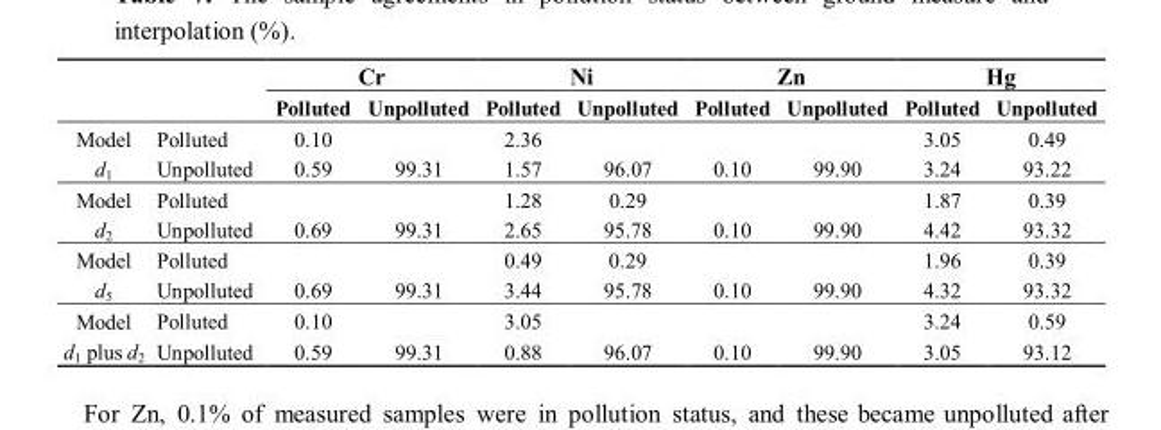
<table><thead><tr><td rowspan="2"></td><td rowspan="2"></td><td colspan="2">Cr</td><td colspan="2">Ni</td><td colspan="2">Zn</td><td colspan="2">Hg</td></tr><tr><td>Polluted</td><td>Unpolluted</td><td>Polluted</td><td>Unpolluted</td><td>Polluted</td><td>Unpolluted</td><td>Polluted</td><td>Unpolluted</td></tr></thead><tbody><tr><td rowspan="2">Model d<sub>1</sub></td><td>Polluted</td><td>0.10</td><td></td><td>2.36</td><td></td><td></td><td></td><td>3.05</td><td>0.49</td></tr><tr><td>Unpolluted</td><td>0.59</td><td>99.31</td><td>1.57</td><td>96.07</td><td>0.10</td><td>99.90</td><td>3.24</td><td>93.22</td></tr><tr><td rowspan="2">Model d<sub>2</sub></td><td>Polluted</td><td></td><td></td><td>1.28</td><td>0.29</td><td></td><td></td><td>1.87</td><td>0.39</td></tr><tr><td>Unpolluted</td><td>0.69</td><td>99.31</td><td>2.65</td><td>95.78</td><td>0.10</td><td>99.90</td><td>4.42</td><td>93.32</td></tr><tr><td rowspan="2">Model d<sub>5</sub></td><td>Polluted</td><td></td><td></td><td>0.49</td><td>0.29</td><td></td><td></td><td>1.96</td><td>0.39</td></tr><tr><td>Unpolluted</td><td>0.69</td><td>99.31</td><td>3.44</td><td>95.78</td><td>0.10</td><td>99.90</td><td>4.32</td><td>93.32</td></tr><tr><td rowspan="2">Model d<sub>1</sub> plus d<sub>2</sub></td><td>Polluted</td><td>0.10</td><td></td><td>3.05</td><td></td><td></td><td></td><td>3.24</td><td>0.59</td></tr><tr><td>Unpolluted</td><td>0.59</td><td>99.31</td><td>0.88</td><td>96.07</td><td>0.10</td><td>99.90</td><td>3.05</td><td>93.12</td></tr></tbody></table>